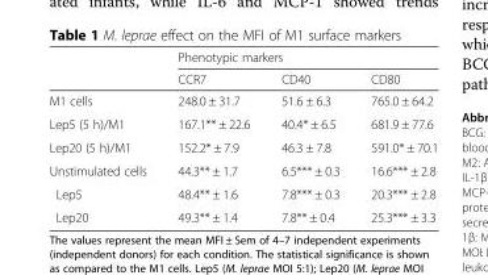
<table><thead><tr><td rowspan="2"></td><td colspan="3">Phenotypic markers</td></tr><tr><td>CCR7</td><td>CD40</td><td>CD80</td></tr></thead><tbody><tr><td>M1 cells</td><td>248.0 ± 31.7</td><td>51.6 ± 6.3</td><td>765.0 ± 64.2</td></tr><tr><td>Lep5 (5 h)/M1</td><td>167.1** ± 22.6</td><td>40.4* ± 6.5</td><td>681.9 ± 77.6</td></tr><tr><td>Lep20 (5 h)/M1</td><td>152.2* ± 7.9</td><td>46.3 ± 7.8</td><td>591.0* ± 70.1</td></tr><tr><td>Unstimulated cells</td><td>44.3** ± 1.7</td><td>6.5*** ± 0.3</td><td>16.6*** ± 2.8</td></tr><tr><td>Lep5</td><td>48.4** ± 1.6</td><td>7.8*** ± 0.3</td><td>20.3*** ± 2.8</td></tr><tr><td>Lep20</td><td>49.3** ± 1.4</td><td>7.8** ± 0.4</td><td>25.3*** ± 3.3</td></tr></tbody></table>